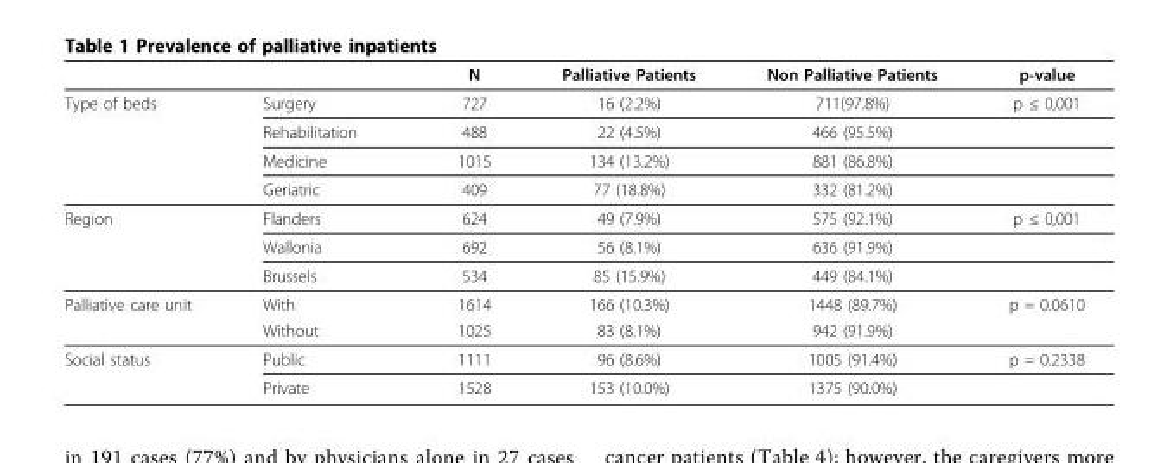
<table><thead><tr><td></td><td></td><td>N</td><td>Palliative Patients</td><td>Non Palliative Patients</td><td>p-value</td></tr></thead><tbody><tr><td rowspan="4">Type of beds</td><td>Surgery</td><td>727</td><td>16 (2.2%)</td><td>711(97.8%)</td><td>p ≤ 0,001</td></tr><tr><td>Rehabilitation</td><td>488</td><td>22 (4.5%)</td><td>466 (95.5%)</td><td></td></tr><tr><td>Medicine</td><td>1015</td><td>134 (13.2%)</td><td>881 (86.8%)</td><td></td></tr><tr><td>Geriatric</td><td>409</td><td>77 (18.8%)</td><td>332 (81.2%)</td><td></td></tr><tr><td rowspan="3">Region</td><td>Flanders</td><td>624</td><td>49 (7.9%)</td><td>575 (92.1%)</td><td>p ≤ 0,001</td></tr><tr><td>Wallonia</td><td>692</td><td>56 (8.1%)</td><td>636 (91.9%)</td><td></td></tr><tr><td>Brussels</td><td>534</td><td>85 (15.9%)</td><td>449 (84.1%)</td><td></td></tr><tr><td rowspan="2">Palliative care unit</td><td>With</td><td>1614</td><td>166 (10.3%)</td><td>1448 (89.7%)</td><td>p = 0.0610</td></tr><tr><td>Without</td><td>1025</td><td>83 (8.1%)</td><td>942 (91.9%)</td><td></td></tr><tr><td rowspan="2">Social status</td><td>Public</td><td>1111</td><td>96 (8.6%)</td><td>1005 (91.4%)</td><td>p = 0.2338</td></tr><tr><td>Private</td><td>1528</td><td>153 (10.0%)</td><td>1375 (90.0%)</td><td></td></tr></tbody></table>